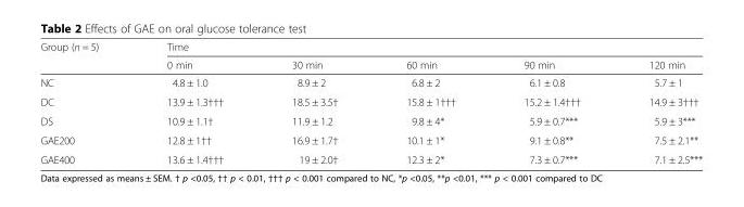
<table><thead><tr><td rowspan="2">Group (n = 5)</td><td colspan="5">Time</td></tr><tr><td>0 min</td><td>30 min</td><td>60 min</td><td>90 min</td><td>120 min</td></tr></thead><tbody><tr><td>NC</td><td>4.8 ± 1.0</td><td>8.9 ± 2</td><td>6.8 ± 2</td><td>6.1 ± 0.8</td><td>5.7 ± 1</td></tr><tr><td>DC</td><td>13.9 ± 1.3†††</td><td>18.5 ± 3.5†</td><td>15.8 ± 1†††</td><td>15.2 ± 1.4†††</td><td>14.9 ± 3†††</td></tr><tr><td>DS</td><td>10.9 ± 1.1†</td><td>11.9 ± 1.2</td><td>9.8 ± 4*</td><td>5.9 ± 0.7***</td><td>5.9 ± 3***</td></tr><tr><td>GAE200</td><td>12.8 ± 1††</td><td>16.9 ± 1.7†</td><td>10.1 ± 1*</td><td>9.1 ± 0.8**</td><td>7.5 ± 2.1**</td></tr><tr><td>GAE400</td><td>13.6 ± 1.4†††</td><td>19 ± 2.0†</td><td>12.3 ± 2*</td><td>7.3 ± 0.7***</td><td>7.1 ± 2.5***</td></tr></tbody></table>